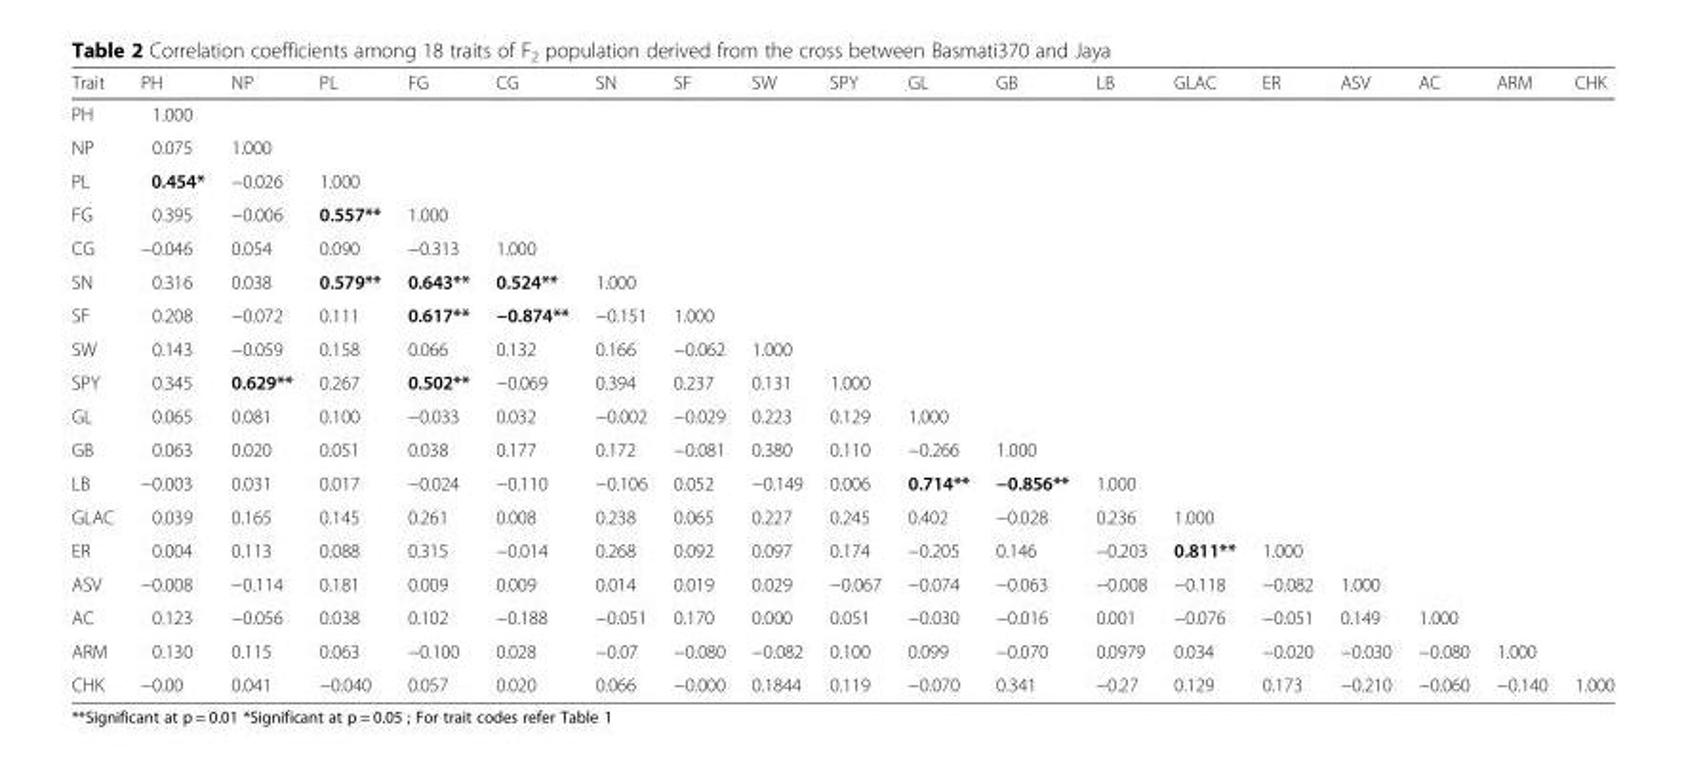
<table><thead><tr><td>Trait</td><td>PH</td><td>NP</td><td>PL</td><td>FG</td><td>CG</td><td>SN</td><td>SF</td><td>SW</td><td>SPY</td><td>GL</td><td>GB</td><td>LB</td><td>GLAC</td><td>ER</td><td>ASV</td><td>AC</td><td>ARM</td><td>CHK</td></tr></thead><tbody><tr><td>PH</td><td>1.000</td><td></td><td></td><td></td><td></td><td></td><td></td><td></td><td></td><td></td><td></td><td></td><td></td><td></td><td></td><td></td><td></td><td></td></tr><tr><td>NP</td><td>0.075</td><td>1.000</td><td></td><td></td><td></td><td></td><td></td><td></td><td></td><td></td><td></td><td></td><td></td><td></td><td></td><td></td><td></td><td></td></tr><tr><td>PL</td><td>0.454*</td><td>−0.026</td><td>1.000</td><td></td><td></td><td></td><td></td><td></td><td></td><td></td><td></td><td></td><td></td><td></td><td></td><td></td><td></td><td></td></tr><tr><td>FG</td><td>0.395</td><td>−0.006</td><td>0.557**</td><td>1.000</td><td></td><td></td><td></td><td></td><td></td><td></td><td></td><td></td><td></td><td></td><td></td><td></td><td></td><td></td></tr><tr><td>CG</td><td>−0.046</td><td>0.054</td><td>0.090</td><td>−0.313</td><td>1.000</td><td></td><td></td><td></td><td></td><td></td><td></td><td></td><td></td><td></td><td></td><td></td><td></td><td></td></tr><tr><td>SN</td><td>0.316</td><td>0.038</td><td>0.579**</td><td>0.643**</td><td>0.524**</td><td>1.000</td><td></td><td></td><td></td><td></td><td></td><td></td><td></td><td></td><td></td><td></td><td></td><td></td></tr><tr><td>SF</td><td>0.208</td><td>−0.072</td><td>0.111</td><td>0.617**</td><td>−0.874**</td><td>−0.151</td><td>1.000</td><td></td><td></td><td></td><td></td><td></td><td></td><td></td><td></td><td></td><td></td><td></td></tr><tr><td>SW</td><td>0.143</td><td>−0.059</td><td>0.158</td><td>0.066</td><td>0.132</td><td>0.166</td><td>−0.062</td><td>1.000</td><td></td><td></td><td></td><td></td><td></td><td></td><td></td><td></td><td></td><td></td></tr><tr><td>SPY</td><td>0.345</td><td>0.629**</td><td>0.267</td><td>0.502**</td><td>−0.069</td><td>0.394</td><td>0.237</td><td>0.131</td><td>1.000</td><td></td><td></td><td></td><td></td><td></td><td></td><td></td><td></td><td></td></tr><tr><td>GL</td><td>0.065</td><td>0.081</td><td>0.100</td><td>−0.033</td><td>0.032</td><td>−0.002</td><td>−0.029</td><td>0.223</td><td>0.129</td><td>1.000</td><td></td><td></td><td></td><td></td><td></td><td></td><td></td><td></td></tr><tr><td>GB</td><td>0.063</td><td>0.020</td><td>0.051</td><td>0.038</td><td>0.177</td><td>0.172</td><td>−0.081</td><td>0.380</td><td>0.110</td><td>−0.266</td><td>1.000</td><td></td><td></td><td></td><td></td><td></td><td></td><td></td></tr><tr><td>LB</td><td>−0.003</td><td>0.031</td><td>0.017</td><td>−0.024</td><td>−0.110</td><td>−0.106</td><td>0.052</td><td>−0.149</td><td>0.006</td><td>0.714**</td><td>−0.856**</td><td>1.000</td><td></td><td></td><td></td><td></td><td></td><td></td></tr><tr><td>GLAC</td><td>0.039</td><td>0.165</td><td>0.145</td><td>0.261</td><td>0.008</td><td>0.238</td><td>0.065</td><td>0.227</td><td>0.245</td><td>0.402</td><td>−0.028</td><td>0.236</td><td>1.000</td><td></td><td></td><td></td><td></td><td></td></tr><tr><td>ER</td><td>0.004</td><td>0.113</td><td>0.088</td><td>0.315</td><td>−0.014</td><td>0.268</td><td>0.092</td><td>0.097</td><td>0.174</td><td>−0.205</td><td>0.146</td><td>−0.203</td><td>0.811**</td><td>1.000</td><td></td><td></td><td></td><td></td></tr><tr><td>ASV</td><td>−0.008</td><td>−0.114</td><td>0.181</td><td>0.009</td><td>0.009</td><td>0.014</td><td>0.019</td><td>0.029</td><td>−0.067</td><td>−0.074</td><td>−0.063</td><td>−0.008</td><td>−0.118</td><td>−0.082</td><td>1.000</td><td></td><td></td><td></td></tr><tr><td>AC</td><td>0.123</td><td>−0.056</td><td>0.038</td><td>0.102</td><td>−0.188</td><td>−0.051</td><td>0.170</td><td>0.000</td><td>0.051</td><td>−0.030</td><td>−0.016</td><td>0.001</td><td>−0.076</td><td>−0.051</td><td>0.149</td><td>1.000</td><td></td><td></td></tr><tr><td>ARM</td><td>0.130</td><td>0.115</td><td>0.063</td><td>−0.100</td><td>0.028</td><td>−0.07</td><td>−0.080</td><td>−0.082</td><td>0.100</td><td>0.099</td><td>−0.070</td><td>0.0979</td><td>0.034</td><td>−0.020</td><td>−0.030</td><td>−0.080</td><td>1.000</td><td></td></tr><tr><td>CHK</td><td>−0.00</td><td>0.041</td><td>−0.040</td><td>0.057</td><td>0.020</td><td>0.066</td><td>−0.000</td><td>0.1844</td><td>0.119</td><td>−0.070</td><td>0.341</td><td>−0.27</td><td>0.129</td><td>0.173</td><td>−0.210</td><td>−0.060</td><td>−0.140</td><td>1.000</td></tr></tbody></table>